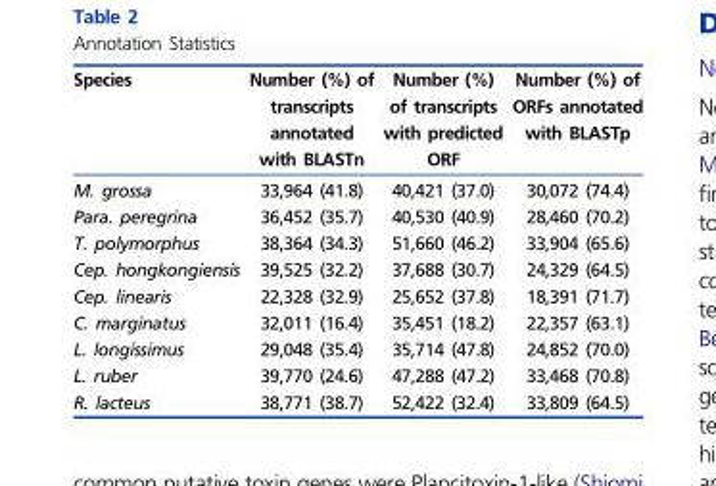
<table><thead><tr><td>Species</td><td>Number (%) of transcripts annotated with BLASTn</td><td>Number (%) of transcripts with predicted ORF</td><td>Number (%) of ORFs annotated with BLASTp</td></tr></thead><tbody><tr><td>M. grossa</td><td>33,964 (41.8)</td><td>40,421 (37.0)</td><td>30,072 (74.4)</td></tr><tr><td>Para. peregrina</td><td>36,452 (35.7)</td><td>40,530 (40.9)</td><td>28,460 (70.2)</td></tr><tr><td>T. polymorphus</td><td>38,364 (34.3)</td><td>51,660 (46.2)</td><td>33,904 (65.6)</td></tr><tr><td>Cep. hongkongiensis</td><td>39,525 (32.2)</td><td>37,688 (30.7)</td><td>24,329 (64.5)</td></tr><tr><td>Cep. linearis</td><td>22,328 (32.9)</td><td>25,652 (37.8)</td><td>18,391 (71.7)</td></tr><tr><td>C. marginatus</td><td>32,011 (16.4)</td><td>35,451 (18.2)</td><td>22,357 (63.1)</td></tr><tr><td>L. longissimus</td><td>29,048 (35.4)</td><td>35,714 (47.8)</td><td>24,852 (70.0)</td></tr><tr><td>L. ruber</td><td>39,770 (24.6)</td><td>47,288 (47.2)</td><td>33,468 (70.8)</td></tr><tr><td>R. lacteus</td><td>38,771 (38.7)</td><td>52,422 (32.4)</td><td>33,809 (64.5)</td></tr></tbody></table>